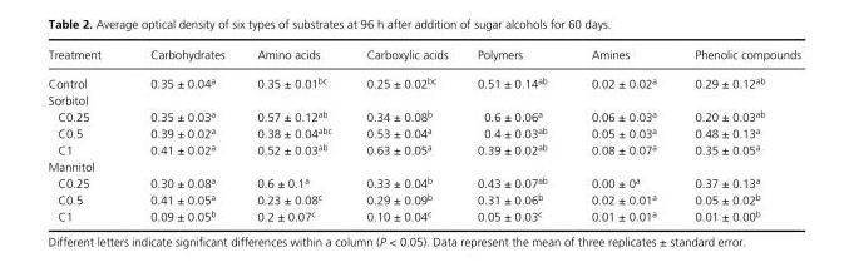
<table><thead><tr><td>Treatment</td><td>Carbohydrates</td><td>Amino acids</td><td>Carboxylic acids</td><td>Polymers</td><td>Amines</td><td>Phenolic compounds</td></tr></thead><tbody><tr><td>Control</td><td>0.35 ± 0.04<sup>a</sup></td><td>0.35 ± 0.01<sup>bc</sup></td><td>0.25 ± 0.02<sup>bc</sup></td><td>0.51 ± 0.14<sup>ab</sup></td><td>0.02 ± 0.02<sup>a</sup></td><td>0.29 ± 0.12<sup>ab</sup></td></tr><tr><td colspan="7">Sorbitol</td></tr><tr><td>C0.25</td><td>0.35 ± 0.03<sup>a</sup></td><td>0.57 ± 0.12<sup>ab</sup></td><td>0.34 ± 0.08<sup>b</sup></td><td>0.6 ± 0.06<sup>a</sup></td><td>0.06 ± 0.03<sup>a</sup></td><td>0.20 ± 0.03<sup>ab</sup></td></tr><tr><td>C0.5</td><td>0.39 ± 0.02<sup>a</sup></td><td>0.38 ± 0.04<sup>abc</sup></td><td>0.53 ± 0.04<sup>a</sup></td><td>0.4 ± 0.03<sup>ab</sup></td><td>0.05 ± 0.03<sup>a</sup></td><td>0.48 ± 0.13<sup>a</sup></td></tr><tr><td>C1</td><td>0.41 ± 0.02<sup>a</sup></td><td>0.52 ± 0.03<sup>ab</sup></td><td>0.63 ± 0.05<sup>a</sup></td><td>0.39 ± 0.02<sup>ab</sup></td><td>0.08 ± 0.07<sup>a</sup></td><td>0.35 ± 0.05<sup>a</sup></td></tr><tr><td colspan="7">Mannitol</td></tr><tr><td>C0.25</td><td>0.30 ± 0.08<sup>a</sup></td><td>0.6 ± 0.1<sup>a</sup></td><td>0.33 ± 0.04<sup>b</sup></td><td>0.43 ± 0.07<sup>ab</sup></td><td>0.00 ± 0<sup>a</sup></td><td>0.37 ± 0.13<sup>a</sup></td></tr><tr><td>C0.5</td><td>0.41 ± 0.05<sup>a</sup></td><td>0.23 ± 0.08<sup>c</sup></td><td>0.29 ± 0.09<sup>b</sup></td><td>0.31 ± 0.06<sup>b</sup></td><td>0.02 ± 0.01<sup>a</sup></td><td>0.05 ± 0.02<sup>b</sup></td></tr><tr><td>C1</td><td>0.09 ± 0.05<sup>b</sup></td><td>0.2 ± 0.07<sup>c</sup></td><td>0.10 ± 0.04<sup>c</sup></td><td>0.05 ± 0.03<sup>c</sup></td><td>0.01 ± 0.01<sup>a</sup></td><td>0.01 ± 0.00<sup>b</sup></td></tr></tbody></table>